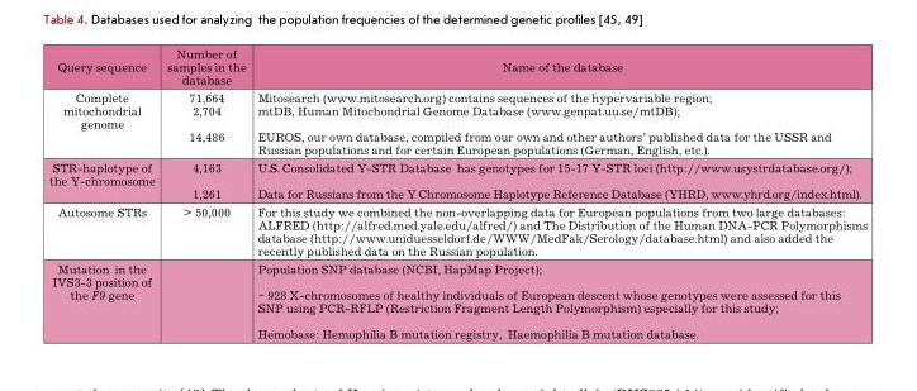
<table><thead><tr><td>Query sequence</td><td>number of samples in the database</td><td>name of the database</td></tr></thead><tbody><tr><td>complete mitochondrial genome</td><td>71,664 2,704 14,486</td><td>Mitosearch (www.mitosearch.org) contains sequences of the hypervariable region; mtDB, Human Mitochondrial Genome Database (www.genpat.uu.se/mtDB); eurOS, our own database, compiled from our own and other authors’ published data for the uSSr and russian populations and for certain european populations (German, english, etc.).</td></tr><tr><td>Str-haplotype of the Y-chromosome</td><td>4,163 1,261</td><td>u.S. consolidated Y-Str Database has genotypes for 15-17 Y-Str loci (http://www.usystrdatabase.org/); Data for russians from the Y chromosome Haplotype reference Database (YHrD, www.yhrd.org/index.html).</td></tr><tr><td>Autosome Strs</td><td>&gt; 50,000</td><td>For this study we combined the non-overlapping data for european populations from two large databases: ALFreD (http://alfred.med.yale.edu/alfred/) and the Distribution of the Human DnA-Pcr Polymorphisms database (http://www.uniduesseldorf.de/WWW/MedFak/Serology/database.html) and also added the recently published data on the russian population.</td></tr><tr><td>Mutation in the IVS3-3 position of the F9 gene</td><td></td><td>Population SnP database (ncBI, HapMap Project); ~ 928 X-chromosomes of healthy individuals of european descent whose genotypes were assessed for this SnP using Pcr-rFLP (restriction Fragment Length Polymorphism) especially for this study; Hemobase: Hemophilia B mutation registry, Haemophilia B mutation database.</td></tr></tbody></table>